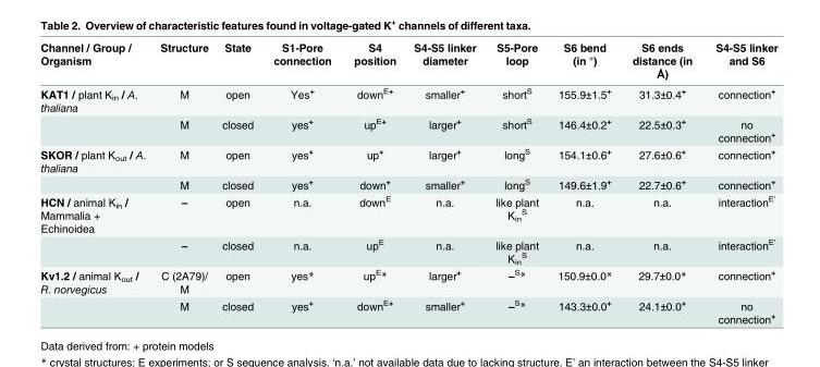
<table><thead><tr><td>Channel / Group / Organism</td><td>Structure</td><td>State</td><td>S1-Pore connection</td><td>S4 position</td><td>S4-S5 linker diameter</td><td>S5-Pore loop</td><td>S6 bend (in °)</td><td>S6 ends distance (in Å)</td><td>S4-S5 linker and S6</td></tr></thead><tbody><tr><td rowspan="2">KAT1 / plant K<sub>in</sub> / A. thaliana</td><td>M</td><td>open</td><td>Yes<sup>+</sup></td><td>down<sup>E+</sup></td><td>smaller<sup>+</sup></td><td>short<sup>S</sup></td><td>155.9±1.5<sup>+</sup></td><td>31.3±0.4<sup>+</sup></td><td>connection<sup>+</sup></td></tr><tr><td>M</td><td>closed</td><td>yes<sup>+</sup></td><td>up<sup>E+</sup></td><td>larger<sup>+</sup></td><td>short<sup>S</sup></td><td>146.4±0.2<sup>+</sup></td><td>22.5±0.3<sup>+</sup></td><td>no connection<sup>+</sup></td></tr><tr><td rowspan="2">SKOR / plant K<sub>out</sub> / A. thaliana</td><td>M</td><td>open</td><td>yes<sup>+</sup></td><td>up<sup>+</sup></td><td>larger<sup>+</sup></td><td>long<sup>S</sup></td><td>154.1±0.6<sup>+</sup></td><td>27.6±0.6<sup>+</sup></td><td>connection<sup>+</sup></td></tr><tr><td>M</td><td>closed</td><td>yes<sup>+</sup></td><td>down<sup>+</sup></td><td>smaller<sup>+</sup></td><td>long<sup>S</sup></td><td>149.6±1.9<sup>+</sup></td><td>22.7±0.6<sup>+</sup></td><td>connection<sup>+</sup></td></tr><tr><td rowspan="2">HCN / animal K<sub>in</sub> / Mammalia + Echinoidea</td><td>–</td><td>open</td><td>n.a.</td><td>down<sup>E</sup></td><td>n.a.</td><td>like plant K<sub>in</sub> <sup>S</sup></td><td>n.a.</td><td>n.a.</td><td>interaction<sup>E’</sup></td></tr><tr><td>–</td><td>closed</td><td>n.a.</td><td>up<sup>E</sup></td><td>n.a.</td><td>like plant K<sub>in</sub> <sup>S</sup></td><td>n.a.</td><td>n.a.</td><td>interaction<sup>E’</sup></td></tr><tr><td rowspan="2">Kv1.2 / animal K<sub>out</sub> / R. norvegicus</td><td>C (2A79)/ M</td><td>open</td><td>yes*</td><td>up<sup>E</sup>*</td><td>larger<sup>+</sup></td><td>–<sup>S</sup>*</td><td>150.9±0.0*</td><td>29.7±0.0*</td><td>connection<sup>+</sup></td></tr><tr><td>M</td><td>closed</td><td>yes<sup>+</sup></td><td>down<sup>E+</sup></td><td>smaller<sup>+</sup></td><td>–<sup>S</sup>*</td><td>143.3±0.0<sup>+</sup></td><td>24.1±0.0<sup>+</sup></td><td>no connection<sup>+</sup></td></tr></tbody></table>